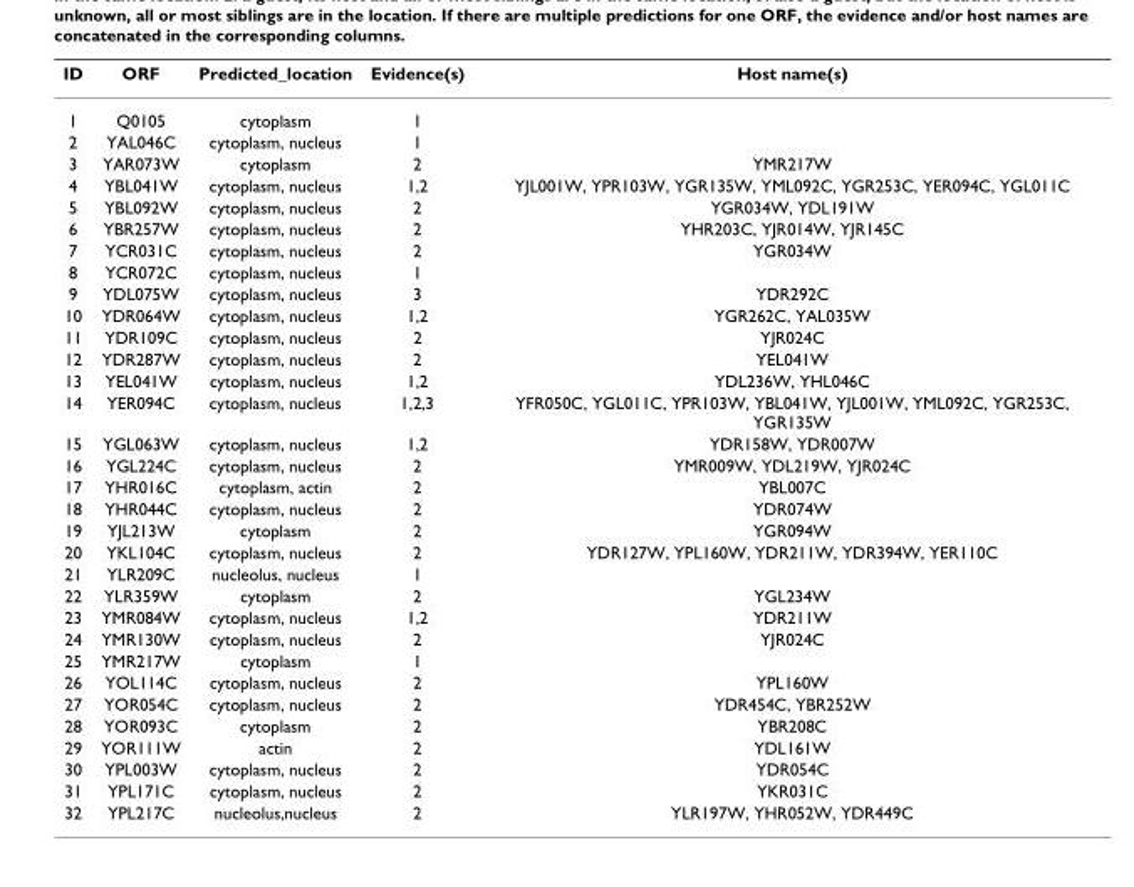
<table><thead><tr><td>ID</td><td>ORF</td><td>Predicted_location</td><td>Evidence(s)</td><td>Host name(s)</td></tr></thead><tbody><tr><td>1</td><td>Q0105</td><td>cytoplasm</td><td>1</td><td></td></tr><tr><td>2</td><td>YAL046C</td><td>cytoplasm, nucleus</td><td>1</td><td></td></tr><tr><td>3</td><td>YAR073W</td><td>cytoplasm</td><td>2</td><td>YMR217W</td></tr><tr><td>4</td><td>YBL041W</td><td>cytoplasm, nucleus</td><td>1,2</td><td>YJL001W, YPR103W, YGR135W, YML092C, YGR253C, YER094C, YGL011C</td></tr><tr><td>5</td><td>YBL092W</td><td>cytoplasm, nucleus</td><td>2</td><td>YGR034W, YDL191W</td></tr><tr><td>6</td><td>YBR257W</td><td>cytoplasm, nucleus</td><td>2</td><td>YHR203C, YJR014W, YJR145C</td></tr><tr><td>7</td><td>YCR031C</td><td>cytoplasm, nucleus</td><td>2</td><td>YGR034W</td></tr><tr><td>8</td><td>YCR072C</td><td>cytoplasm, nucleus</td><td>1</td><td></td></tr><tr><td>9</td><td>YDL075W</td><td>cytoplasm, nucleus</td><td>3</td><td>YDR292C</td></tr><tr><td>10</td><td>YDR064W</td><td>cytoplasm, nucleus</td><td>1,2</td><td>YGR262C, YAL035W</td></tr><tr><td>11</td><td>YDR109C</td><td>cytoplasm, nucleus</td><td>2</td><td>YJR024C</td></tr><tr><td>12</td><td>YDR287W</td><td>cytoplasm, nucleus</td><td>2</td><td>YEL041W</td></tr><tr><td>13</td><td>YEL041W</td><td>cytoplasm, nucleus</td><td>1,2</td><td>YDL236W, YHL046C</td></tr><tr><td>14</td><td>YER094C</td><td>cytoplasm, nucleus</td><td>1,2,3</td><td>YFR050C, YGL011C, YPR103W, YBL041W, YJL001W, YML092C, YGR253C, YGR135W</td></tr><tr><td>15</td><td>YGL063W</td><td>cytoplasm, nucleus</td><td>1,2</td><td>YDR158W, YDR007W</td></tr><tr><td>16</td><td>YGL224C</td><td>cytoplasm, nucleus</td><td>2</td><td>YMR009W, YDL219W, YJR024C</td></tr><tr><td>17</td><td>YHR016C</td><td>cytoplasm, actin</td><td>2</td><td>YBL007C</td></tr><tr><td>18</td><td>YHR044C</td><td>cytoplasm, nucleus</td><td>2</td><td>YDR074W</td></tr><tr><td>19</td><td>YJL213W</td><td>cytoplasm</td><td>2</td><td>YGR094W</td></tr><tr><td>20</td><td>YKL104C</td><td>cytoplasm, nucleus</td><td>2</td><td>YDR127W, YPL160W, YDR211W, YDR394W, YER110C</td></tr><tr><td>21</td><td>YLR209C</td><td>nucleolus, nucleus</td><td>1</td><td></td></tr><tr><td>22</td><td>YLR359W</td><td>cytoplasm</td><td>2</td><td>YGL234W</td></tr><tr><td>23</td><td>YMR084W</td><td>cytoplasm, nucleus</td><td>1,2</td><td>YDR211W</td></tr><tr><td>24</td><td>YMR130W</td><td>cytoplasm, nucleus</td><td>2</td><td>YJR024C</td></tr><tr><td>25</td><td>YMR217W</td><td>cytoplasm</td><td>1</td><td></td></tr><tr><td>26</td><td>YOL114C</td><td>cytoplasm, nucleus</td><td>2</td><td>YPL160W</td></tr><tr><td>27</td><td>YOR054C</td><td>cytoplasm, nucleus</td><td>2</td><td>YDR454C, YBR252W</td></tr><tr><td>28</td><td>YOR093C</td><td>cytoplasm</td><td>2</td><td>YBR208C</td></tr><tr><td>29</td><td>YOR111W</td><td>actin</td><td>2</td><td>YDL161W</td></tr><tr><td>30</td><td>YPL003W</td><td>cytoplasm, nucleus</td><td>2</td><td>YDR054C</td></tr><tr><td>31</td><td>YPL171C</td><td>cytoplasm, nucleus</td><td>2</td><td>YKR031C</td></tr><tr><td>32</td><td>YPL217C</td><td>nucleolus,nucleus</td><td>2</td><td>YLR197W, YHR052W, YDR449C</td></tr></tbody></table>